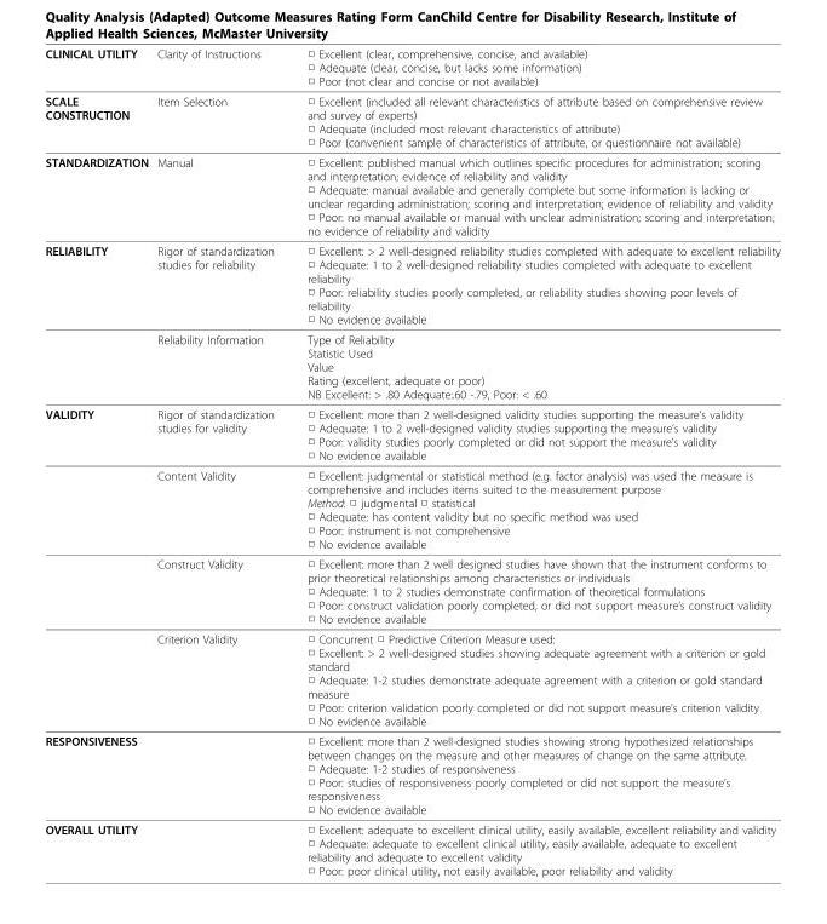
<table><thead><tr><td>CLINICAL UTILITY</td><td>Clarity of Instructions</td><td>□ Excellent (clear, comprehensive, concise, and available) □ Adequate (clear, concise, but lacks some information) □ Poor (not clear and concise or not available)</td></tr></thead><tbody><tr><td>SCALE CONSTRUCTION</td><td>Item Selection</td><td>□ Excellent (included all relevant characteristics of attribute based on comprehensive review and survey of experts) □ Adequate (included most relevant characteristics of attribute) □ Poor (convenient sample of characteristics of attribute, or questionnaire not available)</td></tr><tr><td>STANDARDIZATION</td><td>Manual</td><td>□ Excellent: published manual which outlines specific procedures for administration; scoring and interpretation; evidence of reliability and validity □ Adequate: manual available and generally complete but some information is lacking or unclear regarding administration; scoring and interpretation; evidence of reliability and validity □ Poor: no manual available or manual with unclear administration; scoring and interpretation; no evidence of reliability and validity</td></tr><tr><td rowspan="2">RELIABILITY</td><td>Rigor of standardization studies for reliability</td><td>□ Excellent: &gt; 2 well-designed reliability studies completed with adequate to excellent reliability □ Adequate: 1 to 2 well-designed reliability studies completed with adequate to excellent reliability □ Poor: reliability studies poorly completed, or reliability studies showing poor levels of reliability □ No evidence available</td></tr><tr><td>Reliability Information</td><td>Type of Reliability Statistic Used Value Rating (excellent, adequate or poor) NB Excellent: &gt; .80 Adequate:.60 -.79, Poor: &lt; .60</td></tr><tr><td rowspan="4">VALIDITY</td><td>Rigor of standardization studies for validity</td><td>□ Excellent: more than 2 well-designed validity studies supporting the measure’s validity □ Adequate: 1 to 2 well-designed validity studies supporting the measure’s validity □ Poor: validity studies poorly completed or did not support the measure’s validity □ No evidence available</td></tr><tr><td>Content Validity</td><td>□ Excellent: judgmental or statistical method (e.g. factor analysis) was used the measure is comprehensive and includes items suited to the measurement purpose Method: □ judgmental □ statistical □ Adequate: has content validity but no specific method was used □ Poor: instrument is not comprehensive □ No evidence available</td></tr><tr><td>Construct Validity</td><td>□ Excellent: more than 2 well designed studies have shown that the instrument conforms to prior theoretical relationships among characteristics or individuals □ Adequate: 1 to 2 studies demonstrate confirmation of theoretical formulations □ Poor: construct validation poorly completed, or did not support measure’s construct validity □ No evidence available</td></tr><tr><td>Criterion Validity</td><td>□ Concurrent □ Predictive Criterion Measure used: □ Excellent: &gt; 2 well-designed studies showing adequate agreement with a criterion or gold standard □ Adequate: 1-2 studies demonstrate adequate agreement with a criterion or gold standard measure □ Poor: criterion validation poorly completed or did not support measure’s criterion validity □ No evidence available</td></tr><tr><td>RESPONSIVENESS</td><td></td><td>□ Excellent: more than 2 well-designed studies showing strong hypothesized relationships between changes on the measure and other measures of change on the same attribute. □ Adequate: 1-2 studies of responsiveness □ Poor: studies of responsiveness poorly completed or did not support the measure’s responsiveness □ No evidence available</td></tr><tr><td>OVERALL UTILITY</td><td></td><td>□ Excellent: adequate to excellent clinical utility, easily available, excellent reliability and validity □ Adequate: adequate to excellent clinical utility, easily available, adequate to excellent reliability and adequate to excellent validity □ Poor: poor clinical utility, not easily available, poor reliability and validity</td></tr></tbody></table>